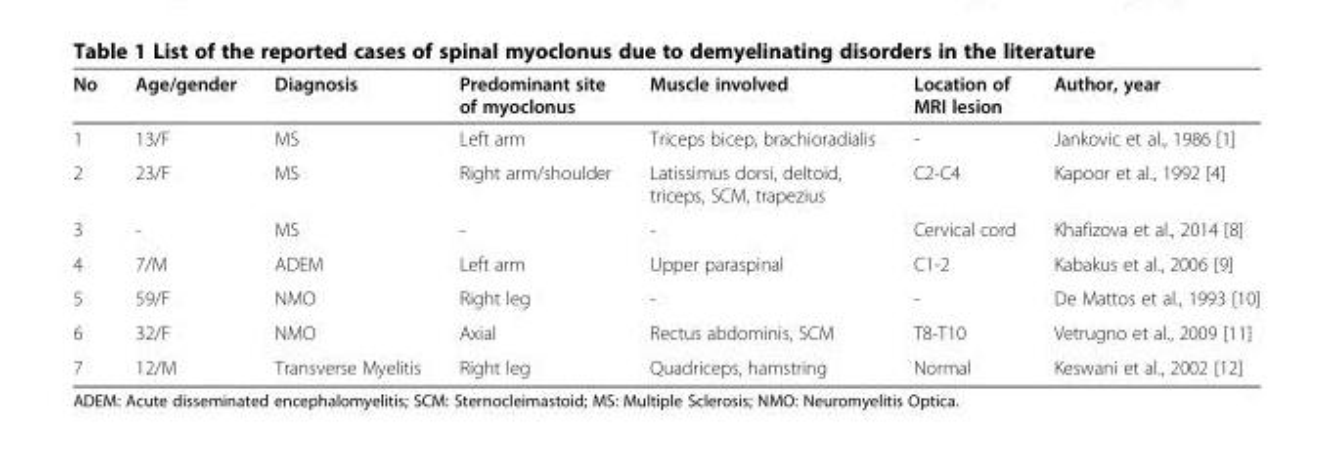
<table><thead><tr><td>No</td><td>Age/gender</td><td>Diagnosis</td><td>Predominant site of myoclonus</td><td>Muscle involved</td><td>Location of MRI lesion</td><td>Author, year</td></tr></thead><tbody><tr><td>1</td><td>13/F</td><td>MS</td><td>Left arm</td><td>Triceps bicep, brachioradialis</td><td>-</td><td>Jankovic et al., 1986 [1]</td></tr><tr><td>2</td><td>23/F</td><td>MS</td><td>Right arm/shoulder</td><td>Latissimus dorsi, deltoid, triceps, SCM, trapezius</td><td>C2-C4</td><td>Kapoor et al., 1992 [4]</td></tr><tr><td>3</td><td>-</td><td>MS</td><td>-</td><td>-</td><td>Cervical cord</td><td>Khafizova et al., 2014 [8]</td></tr><tr><td>4</td><td>7/M</td><td>ADEM</td><td>Left arm</td><td>Upper paraspinal</td><td>C1-2</td><td>Kabakus et al., 2006 [9]</td></tr><tr><td>5</td><td>59/F</td><td>NMO</td><td>Right leg</td><td>-</td><td>-</td><td>De Mattos et al., 1993 [10]</td></tr><tr><td>6</td><td>32/F</td><td>NMO</td><td>Axial</td><td>Rectus abdominis, SCM</td><td>T8-T10</td><td>Vetrugno et al., 2009 [11]</td></tr><tr><td>7</td><td>12/M</td><td>Transverse Myelitis</td><td>Right leg</td><td>Quadriceps, hamstring</td><td>Normal</td><td>Keswani et al., 2002 [12]</td></tr></tbody></table>